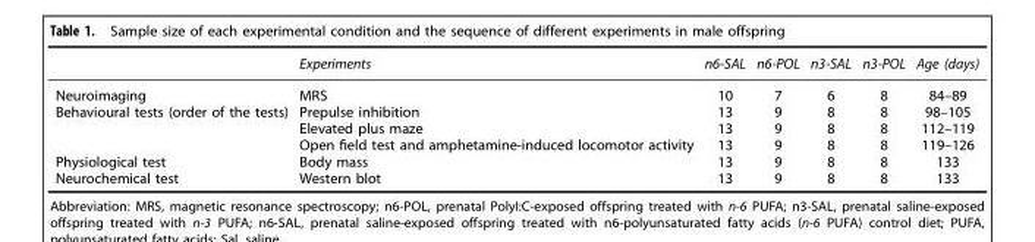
<table><thead><tr><td></td><td>Experiments</td><td>n6-SAL</td><td>n6-POL</td><td>n3-SAL</td><td>n3-POL</td><td>Age (days)</td></tr></thead><tbody><tr><td>Neuroimaging</td><td>MRS</td><td>10</td><td>7</td><td>6</td><td>8</td><td>84–89</td></tr><tr><td rowspan="3">Behavioural tests (order of the tests)</td><td>Prepulse inhibition</td><td>13</td><td>9</td><td>8</td><td>8</td><td>98–105</td></tr><tr><td>Elevated plus maze</td><td>13</td><td>9</td><td>8</td><td>8</td><td>112–119</td></tr><tr><td>Open field test and amphetamine-induced locomotor activity</td><td>13</td><td>9</td><td>8</td><td>8</td><td>119–126</td></tr><tr><td>Physiological test</td><td>Body mass</td><td>13</td><td>9</td><td>8</td><td>8</td><td>133</td></tr><tr><td>Neurochemical test</td><td>Western blot</td><td>13</td><td>9</td><td>8</td><td>8</td><td>133</td></tr></tbody></table>